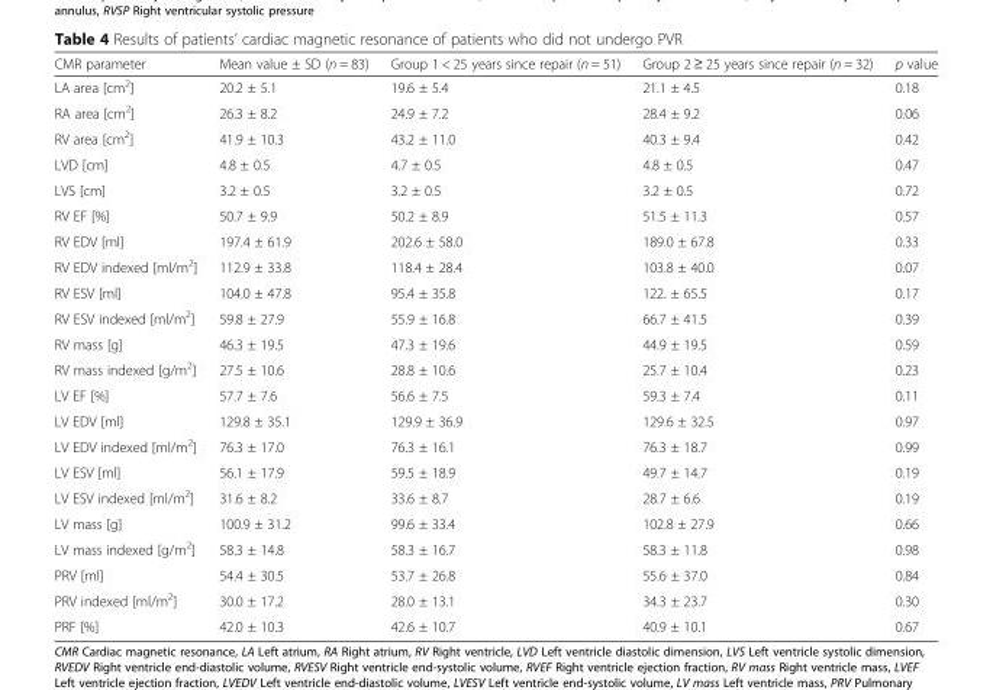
<table><thead><tr><td>CMR parameter</td><td>Mean value ± SD (n = 83)</td><td>Group 1 &lt; 25 years since repair (n = 51)</td><td>Group 2 ≥ 25 years since repair (n = 32)</td><td>p value</td></tr></thead><tbody><tr><td>LA area [cm<sup>2</sup>]</td><td>20.2 ± 5.1</td><td>19.6 ± 5.4</td><td>21.1 ± 4.5</td><td>0.18</td></tr><tr><td>RA area [cm<sup>2</sup>]</td><td>26.3 ± 8.2</td><td>24.9 ± 7.2</td><td>28.4 ± 9.2</td><td>0.06</td></tr><tr><td>RV area [cm<sup>2</sup>]</td><td>41.9 ± 10.3</td><td>43.2 ± 11.0</td><td>40.3 ± 9.4</td><td>0.42</td></tr><tr><td>LVD [cm]</td><td>4.8 ± 0.5</td><td>4.7 ± 0.5</td><td>4.8 ± 0.5</td><td>0.47</td></tr><tr><td>LVS [cm]</td><td>3.2 ± 0.5</td><td>3.2 ± 0.5</td><td>3.2 ± 0.5</td><td>0.72</td></tr><tr><td>RV EF [%]</td><td>50.7 ± 9.9</td><td>50.2 ± 8.9</td><td>51.5 ± 11.3</td><td>0.57</td></tr><tr><td>RV EDV [ml]</td><td>197.4 ± 61.9</td><td>202.6 ± 58.0</td><td>189.0 ± 67.8</td><td>0.33</td></tr><tr><td>RV EDV indexed [ml/m<sup>2</sup>]</td><td>112.9 ± 33.8</td><td>118.4 ± 28.4</td><td>103.8 ± 40.0</td><td>0.07</td></tr><tr><td>RV ESV [ml]</td><td>104.0 ± 47.8</td><td>95.4 ± 35.8</td><td>122. ± 65.5</td><td>0.17</td></tr><tr><td>RV ESV indexed [ml/m<sup>2</sup>]</td><td>59.8 ± 27.9</td><td>55.9 ± 16.8</td><td>66.7 ± 41.5</td><td>0.39</td></tr><tr><td>RV mass [g]</td><td>46.3 ± 19.5</td><td>47.3 ± 19.6</td><td>44.9 ± 19.5</td><td>0.59</td></tr><tr><td>RV mass indexed [g/m<sup>2</sup>]</td><td>27.5 ± 10.6</td><td>28.8 ± 10.6</td><td>25.7 ± 10.4</td><td>0.23</td></tr><tr><td>LV EF [%]</td><td>57.7 ± 7.6</td><td>56.6 ± 7.5</td><td>59.3 ± 7.4</td><td>0.11</td></tr><tr><td>LV EDV [ml]</td><td>129.8 ± 35.1</td><td>129.9 ± 36.9</td><td>129.6 ± 32.5</td><td>0.97</td></tr><tr><td>LV EDV indexed [ml/m<sup>2</sup>]</td><td>76.3 ± 17.0</td><td>76.3 ± 16.1</td><td>76.3 ± 18.7</td><td>0.99</td></tr><tr><td>LV ESV [ml]</td><td>56.1 ± 17.9</td><td>59.5 ± 18.9</td><td>49.7 ± 14.7</td><td>0.19</td></tr><tr><td>LV ESV indexed [ml/m<sup>2</sup>]</td><td>31.6 ± 8.2</td><td>33.6 ± 8.7</td><td>28.7 ± 6.6</td><td>0.19</td></tr><tr><td>LV mass [g]</td><td>100.9 ± 31.2</td><td>99.6 ± 33.4</td><td>102.8 ± 27.9</td><td>0.66</td></tr><tr><td>LV mass indexed [g/m<sup>2</sup>]</td><td>58.3 ± 14.8</td><td>58.3 ± 16.7</td><td>58.3 ± 11.8</td><td>0.98</td></tr><tr><td>PRV [ml]</td><td>54.4 ± 30.5</td><td>53.7 ± 26.8</td><td>55.6 ± 37.0</td><td>0.84</td></tr><tr><td>PRV indexed [ml/m<sup>2</sup>]</td><td>30.0 ± 17.2</td><td>28.0 ± 13.1</td><td>34.3 ± 23.7</td><td>0.30</td></tr><tr><td>PRF [%]</td><td>42.0 ± 10.3</td><td>42.6 ± 10.7</td><td>40.9 ± 10.1</td><td>0.67</td></tr></tbody></table>